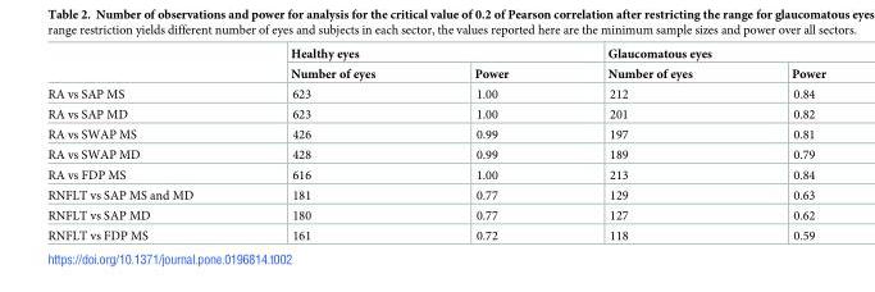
<table><thead><tr><td rowspan="2"></td><td colspan="2">Healthy eyes</td><td colspan="2">Glaucomatous eyes</td></tr><tr><td>Number of eyes</td><td>Power</td><td>Number of eyes</td><td>Power</td></tr></thead><tbody><tr><td>RA vs SAP MS</td><td>623</td><td>1.00</td><td>212</td><td>0.84</td></tr><tr><td>RA vs SAP MD</td><td>623</td><td>1.00</td><td>201</td><td>0.82</td></tr><tr><td>RA vs SWAP MS</td><td>426</td><td>0.99</td><td>197</td><td>0.81</td></tr><tr><td>RA vs SWAP MD</td><td>428</td><td>0.99</td><td>189</td><td>0.79</td></tr><tr><td>RA vs FDP MS</td><td>616</td><td>1.00</td><td>213</td><td>0.84</td></tr><tr><td>RNFLT vs SAP MS and MD</td><td>181</td><td>0.77</td><td>129</td><td>0.63</td></tr><tr><td>RNFLT vs SAP MD</td><td>180</td><td>0.77</td><td>127</td><td>0.62</td></tr><tr><td>RNFLT vs FDP MS</td><td>161</td><td>0.72</td><td>118</td><td>0.59</td></tr></tbody></table>